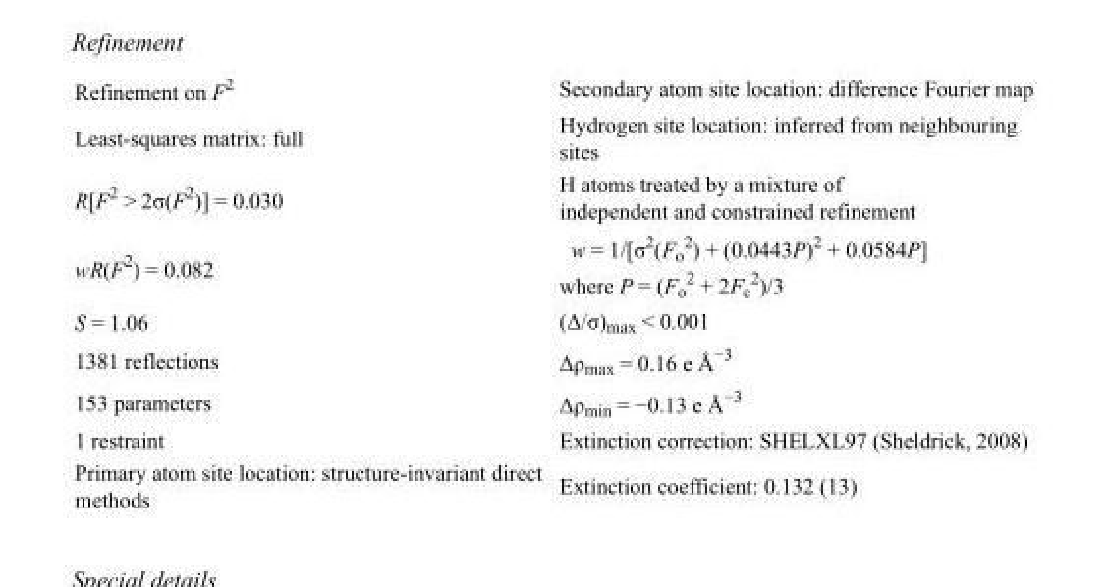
<table><tbody><tr><td>Refinement on F<sup>2</sup></td><td>Secondary atom site location: difference Fourier map</td></tr><tr><td>Least-squares matrix: full</td><td>Hydrogen site location: inferred from neighbouring sites</td></tr><tr><td>R[F<sup>2</sup> &gt; 2σ(F<sup>2</sup>)] = 0.030</td><td>H atoms treated by a mixture of independent and constrained refinement</td></tr><tr><td>wR(F<sup>2</sup>) = 0.082</td><td>w = 1/[σ<sup>2</sup>(F<sub>o</sub> <sup>2</sup>) + (0.0443P)<sup>2</sup> + 0.0584P] where P = (F<sub>o</sub> <sup>2</sup> + 2F<sub>c</sub> <sup>2</sup>)/3</td></tr><tr><td>S = 1.06</td><td>(Δ/σ)<sub>max</sub> &lt; 0.001</td></tr><tr><td>1381 reflections</td><td>Δρ<sub>max</sub> = 0.16 e Å<sup>−3</sup></td></tr><tr><td>153 parameters</td><td>Δρ<sub>min</sub> = −0.13 e Å<sup>−3</sup></td></tr><tr><td>1 restraint</td><td>Extinction correction: SHELXL97 (Sheldrick, 2008)</td></tr><tr><td>Primary atom site location: structure-invariant direct methods</td><td>Extinction coefficient: 0.132 (13)</td></tr></tbody></table>